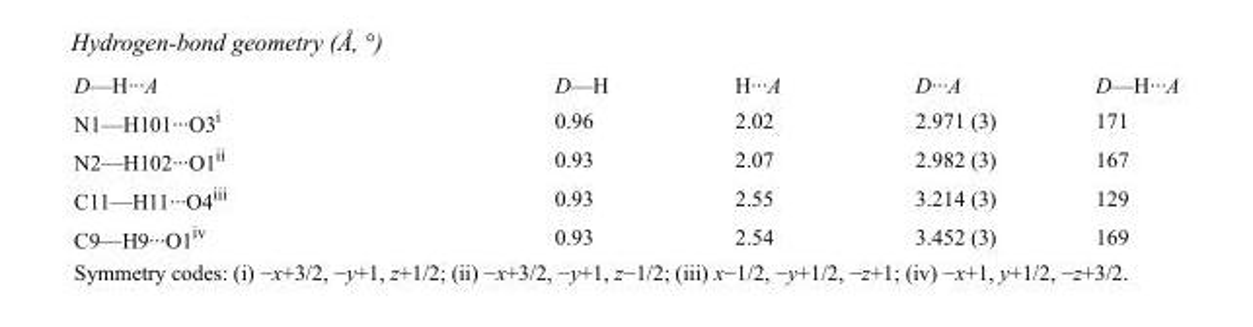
<table><tbody><tr><td>D—H···A</td><td>D—H</td><td>H···A</td><td>D···A</td><td>D—H···A</td></tr><tr><td>N1—H101···O3<sup>i</sup></td><td>0.96</td><td>2.02</td><td>2.971 (3)</td><td>171</td></tr><tr><td>N2—H102···O1<sup>ii</sup></td><td>0.93</td><td>2.07</td><td>2.982 (3)</td><td>167</td></tr><tr><td>C11—H11···O4<sup>iii</sup></td><td>0.93</td><td>2.55</td><td>3.214 (3)</td><td>129</td></tr><tr><td>C9—H9···O1<sup>iv</sup></td><td>0.93</td><td>2.54</td><td>3.452 (3)</td><td>169</td></tr></tbody></table>